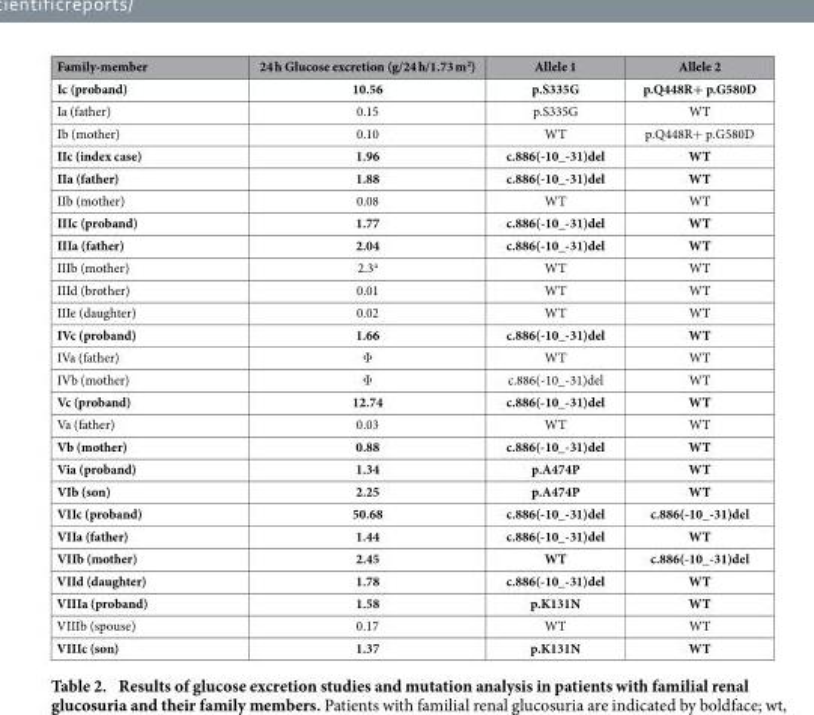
<table><thead><tr><td>Family-member</td><td>24 h Glucose excretion (g/24 h/1.73 m<sup>2</sup>)</td><td>Allele 1</td><td>Allele 2</td></tr></thead><tbody><tr><td>Ic (proband)</td><td>10.56</td><td>p.S335G</td><td>p.Q448R+ p.G580D</td></tr><tr><td>Ia (father)</td><td>0.15</td><td>p.S335G</td><td>WT</td></tr><tr><td>Ib (mother)</td><td>0.10</td><td>WT</td><td>p.Q448R+ p.G580D</td></tr><tr><td>IIc (index case)</td><td>1.96</td><td>c.886(-10_-31)del</td><td>WT</td></tr><tr><td>IIa (father)</td><td>1.88</td><td>c.886(-10_-31)del</td><td>WT</td></tr><tr><td>IIb (mother)</td><td>0.08</td><td>WT</td><td>WT</td></tr><tr><td>IIIc (proband)</td><td>1.77</td><td>c.886(-10_-31)del</td><td>WT</td></tr><tr><td>IIIa (father)</td><td>2.04</td><td>c.886(-10_-31)del</td><td>WT</td></tr><tr><td>IIIb (mother)</td><td>2.3<sup>a</sup></td><td>WT</td><td>WT</td></tr><tr><td>IIId (brother)</td><td>0.01</td><td>WT</td><td>WT</td></tr><tr><td>IIIe (daughter)</td><td>0.02</td><td>WT</td><td>WT</td></tr><tr><td>IVc (proband)</td><td>1.66</td><td>c.886(-10_-31)del</td><td>WT</td></tr><tr><td>IVa (father)</td><td>Φ</td><td>WT</td><td>WT</td></tr><tr><td>IVb (mother)</td><td>Φ</td><td>c.886(-10_-31)del</td><td>WT</td></tr><tr><td>Vc (proband)</td><td>12.74</td><td>c.886(-10_-31)del</td><td>WT</td></tr><tr><td>Va (father)</td><td>0.03</td><td>WT</td><td>WT</td></tr><tr><td>Vb (mother)</td><td>0.88</td><td>c.886(-10_-31)del</td><td>WT</td></tr><tr><td>Via (proband)</td><td>1.34</td><td>p.A474P</td><td>WT</td></tr><tr><td>VIb (son)</td><td>2.25</td><td>p.A474P</td><td>WT</td></tr><tr><td>VIIc (proband)</td><td>50.68</td><td>c.886(-10_-31)del</td><td>c.886(-10_-31)del</td></tr><tr><td>VIIa (father)</td><td>1.44</td><td>c.886(-10_-31)del</td><td>WT</td></tr><tr><td>VIIb (mother)</td><td>2.45</td><td>WT</td><td>c.886(-10_-31)del</td></tr><tr><td>VIId (daughter)</td><td>1.78</td><td>c.886(-10_-31)del</td><td>WT</td></tr><tr><td>VIIIa (proband)</td><td>1.58</td><td>p.K131N</td><td>WT</td></tr><tr><td>VIIIb (spouse)</td><td>0.17</td><td>WT</td><td>WT</td></tr><tr><td>VIIIc (son)</td><td>1.37</td><td>p.K131N</td><td>WT</td></tr></tbody></table>